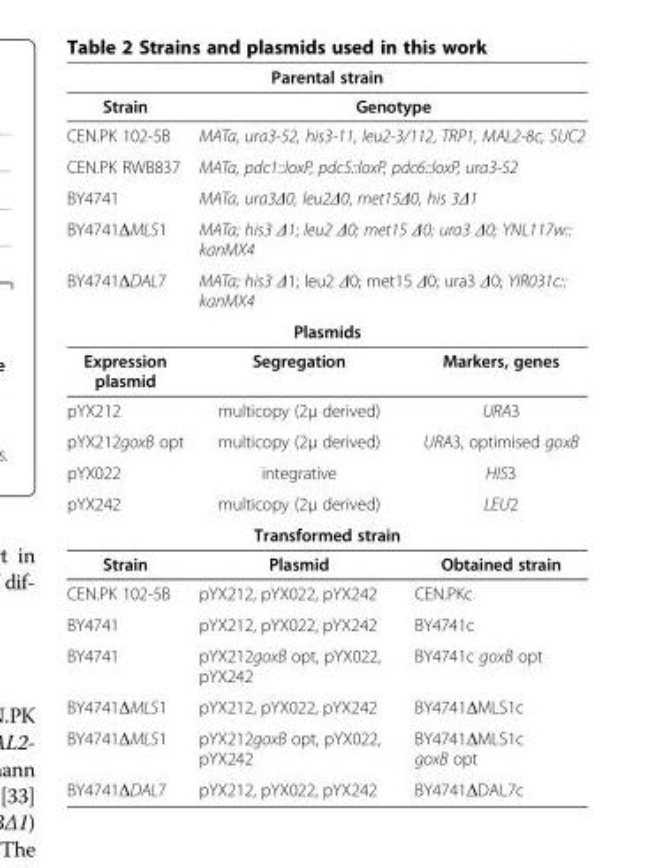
<table><thead><tr><td colspan="3">Parental strain</td></tr><tr><td>Strain</td><td colspan="2">Genotype</td></tr></thead><tbody><tr><td>CEN.PK 102-5B</td><td colspan="2">MATa, ura3-52, his3-11, leu2-3/112, TRP1, MAL2-8c, SUC2</td></tr><tr><td>CEN.PK RWB837</td><td colspan="2">MATa, pdc1::loxP, pdc5::loxP, pdc6::loxP, ura3-52</td></tr><tr><td>BY4741</td><td colspan="2">MATa, ura3Δ0, leu2Δ0, met15Δ0, his 3Δ1</td></tr><tr><td>BY4741ΔMLS1</td><td colspan="2">MATa; his3 Δ1; leu2 Δ0; met15 Δ0; ura3 Δ0; YNL117w:: kanMX4</td></tr><tr><td>BY4741ΔDAL7</td><td colspan="2">MATa; his3 Δ1; leu2 Δ0; met15 Δ0; ura3 Δ0; YIR031c:: kanMX4</td></tr><tr><td colspan="3">Plasmids</td></tr><tr><td>Expression plasmid</td><td>Segregation</td><td>Markers, genes</td></tr><tr><td>pYX212</td><td>multicopy (2μ derived)</td><td>URA3</td></tr><tr><td>pYX212goxB opt</td><td>multicopy (2μ derived)</td><td>URA3, optimised goxB</td></tr><tr><td>pYX022</td><td>integrative</td><td>HIS3</td></tr><tr><td>pYX242</td><td>multicopy (2μ derived)</td><td>LEU2</td></tr><tr><td colspan="3">Transformed strain</td></tr><tr><td>Strain</td><td>Plasmid</td><td>Obtained strain</td></tr><tr><td>CEN.PK 102-5B</td><td>pYX212, pYX022, pYX242</td><td>CEN.PKc</td></tr><tr><td>BY4741</td><td>pYX212, pYX022, pYX242</td><td>BY4741c</td></tr><tr><td>BY4741</td><td>pYX212goxB opt, pYX022, pYX242</td><td>BY4741c goxB opt</td></tr><tr><td>BY4741ΔMLS1</td><td>pYX212, pYX022, pYX242</td><td>BY4741ΔMLS1c</td></tr><tr><td>BY4741ΔMLS1</td><td>pYX212goxB opt, pYX022, pYX242</td><td>BY4741ΔMLS1c goxB opt</td></tr><tr><td>BY4741ΔDAL7</td><td>pYX212, pYX022, pYX242</td><td>BY4741ΔDAL7c</td></tr></tbody></table>